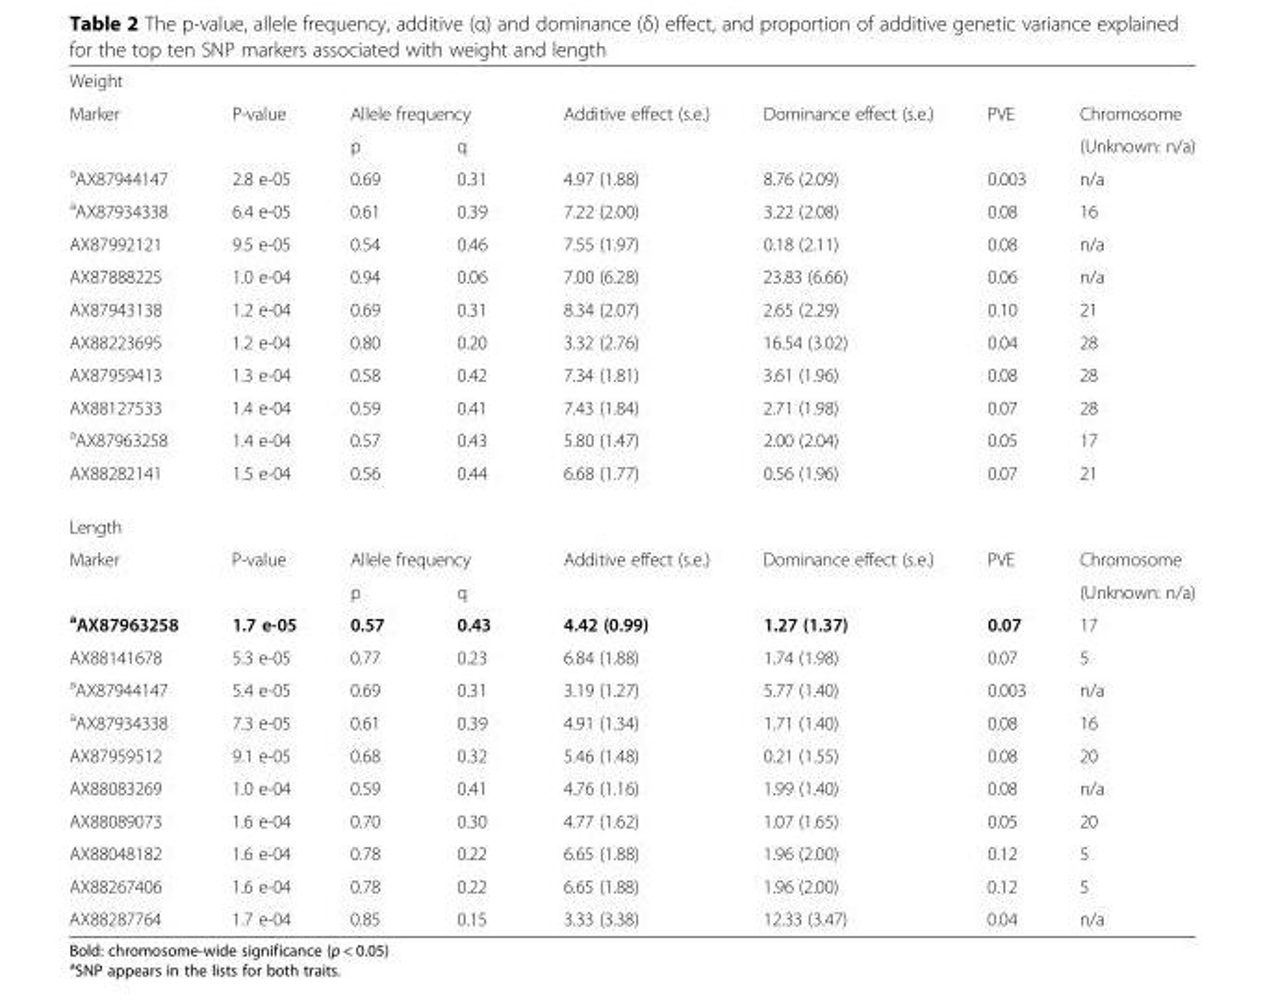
<table><tbody><tr><td colspan="8">Weight</td></tr><tr><td rowspan="2">Marker</td><td>P-value</td><td colspan="2">Allele frequency</td><td>Additive effect (s.e.)</td><td>Dominance effect (s.e.)</td><td>PVE</td><td>Chromosome</td></tr><tr><td></td><td>p</td><td>q</td><td></td><td></td><td></td><td>(Unknown: n/a)</td></tr><tr><td><sup>a</sup>AX87944147</td><td>2.8 e-05</td><td>0.69</td><td>0.31</td><td>4.97 (1.88)</td><td>8.76 (2.09)</td><td>0.003</td><td>n/a</td></tr><tr><td><sup>a</sup>AX87934338</td><td>6.4 e-05</td><td>0.61</td><td>0.39</td><td>7.22 (2.00)</td><td>3.22 (2.08)</td><td>0.08</td><td>16</td></tr><tr><td>AX87992121</td><td>9.5 e-05</td><td>0.54</td><td>0.46</td><td>7.55 (1.97)</td><td>0.18 (2.11)</td><td>0.08</td><td>n/a</td></tr><tr><td>AX87888225</td><td>1.0 e-04</td><td>0.94</td><td>0.06</td><td>7.00 (6.28)</td><td>23.83 (6.66)</td><td>0.06</td><td>n/a</td></tr><tr><td>AX87943138</td><td>1.2 e-04</td><td>0.69</td><td>0.31</td><td>8.34 (2.07)</td><td>2.65 (2.29)</td><td>0.10</td><td>21</td></tr><tr><td>AX88223695</td><td>1.2 e-04</td><td>0.80</td><td>0.20</td><td>3.32 (2.76)</td><td>16.54 (3.02)</td><td>0.04</td><td>28</td></tr><tr><td>AX87959413</td><td>1.3 e-04</td><td>0.58</td><td>0.42</td><td>7.34 (1.81)</td><td>3.61 (1.96)</td><td>0.08</td><td>28</td></tr><tr><td>AX88127533</td><td>1.4 e-04</td><td>0.59</td><td>0.41</td><td>7.43 (1.84)</td><td>2.71 (1.98)</td><td>0.07</td><td>28</td></tr><tr><td><sup>a</sup>AX87963258</td><td>1.4 e-04</td><td>0.57</td><td>0.43</td><td>5.80 (1.47)</td><td>2.00 (2.04)</td><td>0.05</td><td>17</td></tr><tr><td>AX88282141</td><td>1.5 e-04</td><td>0.56</td><td>0.44</td><td>6.68 (1.77)</td><td>0.56 (1.96)</td><td>0.07</td><td>21</td></tr><tr><td colspan="8">Length</td></tr><tr><td rowspan="2">Marker</td><td>P-value</td><td colspan="2">Allele frequency</td><td>Additive effect (s.e.)</td><td>Dominance effect (s.e.)</td><td>PVE</td><td>Chromosome</td></tr><tr><td></td><td>p</td><td>q</td><td></td><td></td><td></td><td>(Unknown: n/a)</td></tr><tr><td><sup>a</sup>AX87963258</td><td>1.7 e-05</td><td>0.57</td><td>0.43</td><td>4.42 (0.99)</td><td>1.27 (1.37)</td><td>0.07</td><td>17</td></tr><tr><td>AX88141678</td><td>5.3 e-05</td><td>0.77</td><td>0.23</td><td>6.84 (1.88)</td><td>1.74 (1.98)</td><td>0.07</td><td>5</td></tr><tr><td><sup>a</sup>AX87944147</td><td>5.4 e-05</td><td>0.69</td><td>0.31</td><td>3.19 (1.27)</td><td>5.77 (1.40)</td><td>0.003</td><td>n/a</td></tr><tr><td><sup>a</sup>AX87934338</td><td>7.3 e-05</td><td>0.61</td><td>0.39</td><td>4.91 (1.34)</td><td>1.71 (1.40)</td><td>0.08</td><td>16</td></tr><tr><td>AX87959512</td><td>9.1 e-05</td><td>0.68</td><td>0.32</td><td>5.46 (1.48)</td><td>0.21 (1.55)</td><td>0.08</td><td>20</td></tr><tr><td>AX88083269</td><td>1.0 e-04</td><td>0.59</td><td>0.41</td><td>4.76 (1.16)</td><td>1.99 (1.40)</td><td>0.08</td><td>n/a</td></tr><tr><td>AX88089073</td><td>1.6 e-04</td><td>0.70</td><td>0.30</td><td>4.77 (1.62)</td><td>1.07 (1.65)</td><td>0.05</td><td>20</td></tr><tr><td>AX88048182</td><td>1.6 e-04</td><td>0.78</td><td>0.22</td><td>6.65 (1.88)</td><td>1.96 (2.00)</td><td>0.12</td><td>5</td></tr><tr><td>AX88267406</td><td>1.6 e-04</td><td>0.78</td><td>0.22</td><td>6.65 (1.88)</td><td>1.96 (2.00)</td><td>0.12</td><td>5</td></tr><tr><td>AX88287764</td><td>1.7 e-04</td><td>0.85</td><td>0.15</td><td>3.33 (3.38)</td><td>12.33 (3.47)</td><td>0.04</td><td>n/a</td></tr></tbody></table>